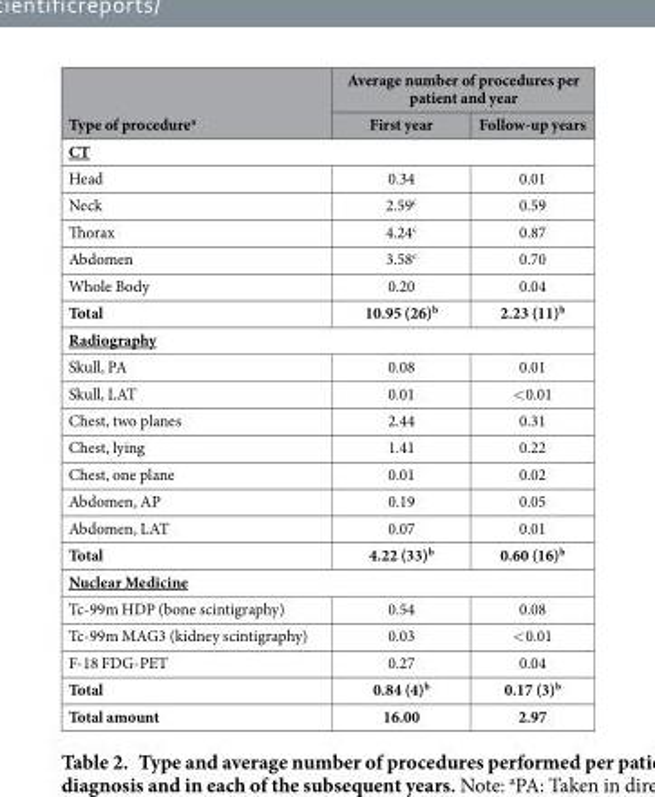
<table><thead><tr><td rowspan="2">Type of procedure<sup>a</sup></td><td colspan="2">Average number of procedures per patient and year</td></tr><tr><td>First year</td><td>Follow-up years</td></tr></thead><tbody><tr><td colspan="3">CT</td></tr><tr><td>Head</td><td>0.34</td><td>0.01</td></tr><tr><td>Neck</td><td>2.59<sup>c</sup></td><td>0.59</td></tr><tr><td>Thorax</td><td>4.24<sup>c</sup></td><td>0.87</td></tr><tr><td>Abdomen</td><td>3.58<sup>c</sup></td><td>0.70</td></tr><tr><td>Whole Body</td><td>0.20</td><td>0.04</td></tr><tr><td>Total</td><td>10.95 (26)<sup>b</sup></td><td>2.23 (11)<sup>b</sup></td></tr><tr><td colspan="3">Radiography</td></tr><tr><td>Skull, PA</td><td>0.08</td><td>0.01</td></tr><tr><td>Skull, LAT</td><td>0.01</td><td>&lt; 0.01</td></tr><tr><td>Chest, two planes</td><td>2.44</td><td>0.31</td></tr><tr><td>Chest, lying</td><td>1.41</td><td>0.22</td></tr><tr><td>Chest, one plane</td><td>0.01</td><td>0.02</td></tr><tr><td>Abdomen, AP</td><td>0.19</td><td>0.05</td></tr><tr><td>Abdomen, LAT</td><td>0.07</td><td>0.01</td></tr><tr><td>Total</td><td>4.22 (33)<sup>b</sup></td><td>0.60 (16)<sup>b</sup></td></tr><tr><td colspan="3">Nuclear Medicine</td></tr><tr><td>Tc-99m HDP (bone scintigraphy)</td><td>0.54</td><td>0.08</td></tr><tr><td>Tc-99m MAG3 (kidney scintigraphy)</td><td>0.03</td><td>&lt; 0.01</td></tr><tr><td>F-18 FDG-PET</td><td>0.27</td><td>0.04</td></tr><tr><td>Total</td><td>0.84 (4)<sup>b</sup></td><td>0.17 (3)<sup>b</sup></td></tr><tr><td>Total amount</td><td>16.00</td><td>2.97</td></tr></tbody></table>